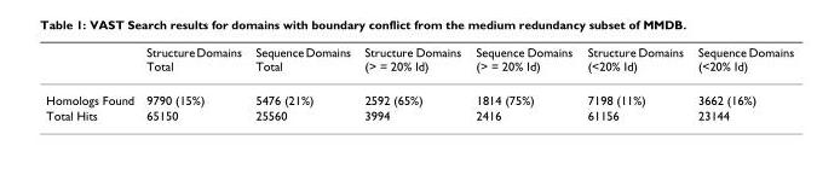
<table><thead><tr><td></td><td>Structure Domains Total</td><td>Sequence Domains Total</td><td>Structure Domains (&gt; = 20% Id)</td><td>Sequence Domains (&gt; = 20% Id)</td><td>Structure Domains (&lt;20% Id)</td><td>Sequence Domains (&lt;20% Id)</td></tr></thead><tbody><tr><td>Homologs Found</td><td>9790 (15%)</td><td>5476 (21%)</td><td>2592 (65%)</td><td>1814 (75%)</td><td>7198 (11%)</td><td>3662 (16%)</td></tr><tr><td>Total Hits</td><td>65150</td><td>25560</td><td>3994</td><td>2416</td><td>61156</td><td>23144</td></tr></tbody></table>